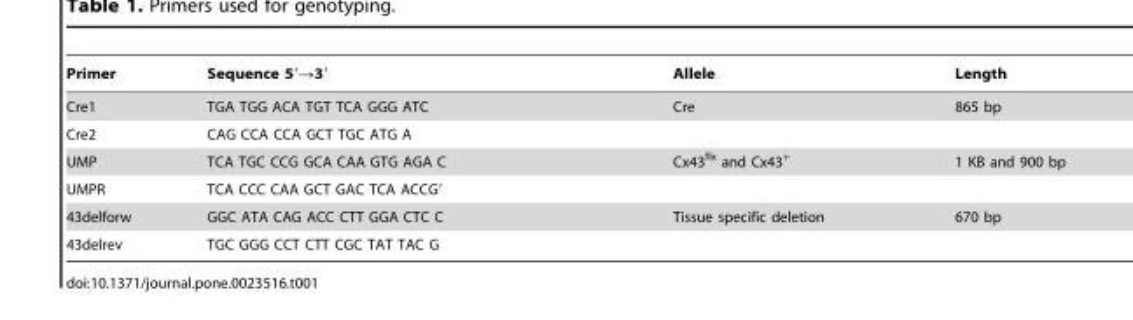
<table><thead><tr><td>Primer</td><td>Sequence 5′→3′</td><td>Allele</td><td>Length</td></tr></thead><tbody><tr><td>Cre1</td><td>TGA TGG ACA TGT TCA GGG ATC</td><td>Cre</td><td>865 bp</td></tr><tr><td>Cre2</td><td>CAG CCA CCA GCT TGC ATG A</td><td></td><td></td></tr><tr><td>UMP</td><td>TCA TGC CCG GCA CAA GTG AGA C</td><td>Cx43<sup>flx</sup> and Cx43<sup>+</sup></td><td>1 KB and 900 bp</td></tr><tr><td>UMPR</td><td>TCA CCC CAA GCT GAC TCA ACCG′</td><td></td><td></td></tr><tr><td>43delforw</td><td>GGC ATA CAG ACC CTT GGA CTC C</td><td>Tissue specific deletion</td><td>670 bp</td></tr><tr><td>43delrev</td><td>TGC GGG CCT CTT CGC TAT TAC G</td><td></td><td></td></tr></tbody></table>